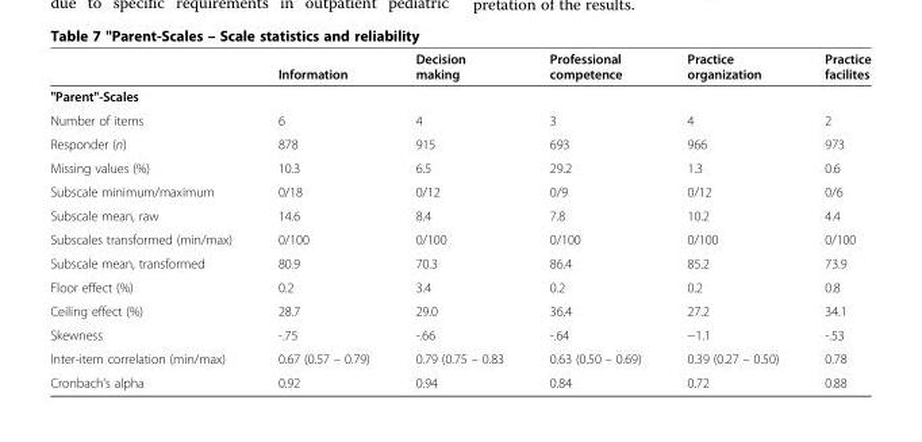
<table><thead><tr><td></td><td>Information</td><td>Decision making</td><td>Professional competence</td><td>Practice organization</td><td>Practice facilites</td></tr></thead><tbody><tr><td colspan="6">&quot;Parent&quot;-Scales</td></tr><tr><td>Number of items</td><td>6</td><td>4</td><td>3</td><td>4</td><td>2</td></tr><tr><td>Responder (n)</td><td>878</td><td>915</td><td>693</td><td>966</td><td>973</td></tr><tr><td>Missing values (%)</td><td>10.3</td><td>6.5</td><td>29.2</td><td>1.3</td><td>0.6</td></tr><tr><td>Subscale minimum/maximum</td><td>0/18</td><td>0/12</td><td>0/9</td><td>0/12</td><td>0/6</td></tr><tr><td>Subscale mean, raw</td><td>14.6</td><td>8.4</td><td>7.8</td><td>10.2</td><td>4.4</td></tr><tr><td>Subscales transformed (min/max)</td><td>0/100</td><td>0/100</td><td>0/100</td><td>0/100</td><td>0/100</td></tr><tr><td>Subscale mean, transformed</td><td>80.9</td><td>70.3</td><td>86.4</td><td>85.2</td><td>73.9</td></tr><tr><td>Floor effect (%)</td><td>0.2</td><td>3.4</td><td>0.2</td><td>0.2</td><td>0.8</td></tr><tr><td>Ceiling effect (%)</td><td>28.7</td><td>29.0</td><td>36.4</td><td>27.2</td><td>34.1</td></tr><tr><td>Skewness</td><td>-.75</td><td>-.66</td><td>-.64</td><td>−1.1</td><td>-.53</td></tr><tr><td>Inter-item correlation (min/max)</td><td>0.67 (0.57 – 0.79)</td><td>0.79 (0.75 – 0.83</td><td>0.63 (0.50 – 0.69)</td><td>0.39 (0.27 – 0.50)</td><td>0.78</td></tr><tr><td>Cronbach‘s alpha</td><td>0.92</td><td>0.94</td><td>0.84</td><td>0.72</td><td>0.88</td></tr></tbody></table>